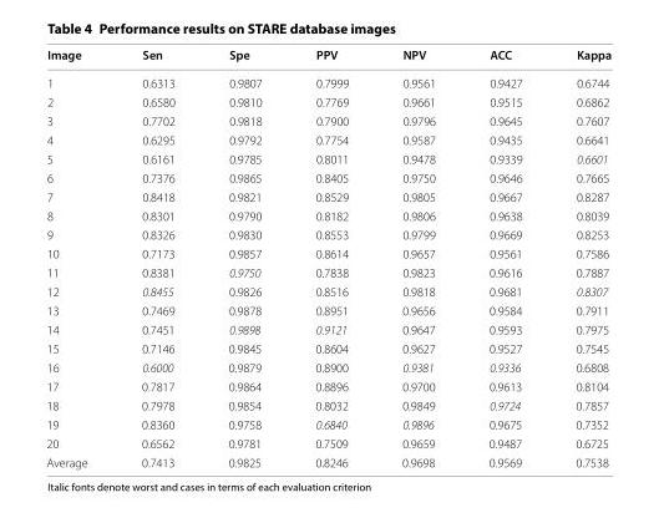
<table><thead><tr><td>Image</td><td>Sen</td><td>Spe</td><td>PPV</td><td>NPV</td><td>ACC</td><td>Kappa</td></tr></thead><tbody><tr><td>1</td><td>0.6313</td><td>0.9807</td><td>0.7999</td><td>0.9561</td><td>0.9427</td><td>0.6744</td></tr><tr><td>2</td><td>0.6580</td><td>0.9810</td><td>0.7769</td><td>0.9661</td><td>0.9515</td><td>0.6862</td></tr><tr><td>3</td><td>0.7702</td><td>0.9818</td><td>0.7900</td><td>0.9796</td><td>0.9645</td><td>0.7607</td></tr><tr><td>4</td><td>0.6295</td><td>0.9792</td><td>0.7754</td><td>0.9587</td><td>0.9435</td><td>0.6641</td></tr><tr><td>5</td><td>0.6161</td><td>0.9785</td><td>0.8011</td><td>0.9478</td><td>0.9339</td><td>0.6601</td></tr><tr><td>6</td><td>0.7376</td><td>0.9865</td><td>0.8405</td><td>0.9750</td><td>0.9646</td><td>0.7665</td></tr><tr><td>7</td><td>0.8418</td><td>0.9821</td><td>0.8529</td><td>0.9805</td><td>0.9667</td><td>0.8287</td></tr><tr><td>8</td><td>0.8301</td><td>0.9790</td><td>0.8182</td><td>0.9806</td><td>0.9638</td><td>0.8039</td></tr><tr><td>9</td><td>0.8326</td><td>0.9830</td><td>0.8553</td><td>0.9799</td><td>0.9669</td><td>0.8253</td></tr><tr><td>10</td><td>0.7173</td><td>0.9857</td><td>0.8614</td><td>0.9657</td><td>0.9561</td><td>0.7586</td></tr><tr><td>11</td><td>0.8381</td><td>0.9750</td><td>0.7838</td><td>0.9823</td><td>0.9616</td><td>0.7887</td></tr><tr><td>12</td><td>0.8455</td><td>0.9826</td><td>0.8516</td><td>0.9818</td><td>0.9681</td><td>0.8307</td></tr><tr><td>13</td><td>0.7469</td><td>0.9878</td><td>0.8951</td><td>0.9656</td><td>0.9584</td><td>0.7911</td></tr><tr><td>14</td><td>0.7451</td><td>0.9898</td><td>0.9121</td><td>0.9647</td><td>0.9593</td><td>0.7975</td></tr><tr><td>15</td><td>0.7146</td><td>0.9845</td><td>0.8604</td><td>0.9627</td><td>0.9527</td><td>0.7545</td></tr><tr><td>16</td><td>0.6000</td><td>0.9879</td><td>0.8900</td><td>0.9381</td><td>0.9336</td><td>0.6808</td></tr><tr><td>17</td><td>0.7817</td><td>0.9864</td><td>0.8896</td><td>0.9700</td><td>0.9613</td><td>0.8104</td></tr><tr><td>18</td><td>0.7978</td><td>0.9854</td><td>0.8032</td><td>0.9849</td><td>0.9724</td><td>0.7857</td></tr><tr><td>19</td><td>0.8360</td><td>0.9758</td><td>0.6840</td><td>0.9896</td><td>0.9675</td><td>0.7352</td></tr><tr><td>20</td><td>0.6562</td><td>0.9781</td><td>0.7509</td><td>0.9659</td><td>0.9487</td><td>0.6725</td></tr><tr><td>Average</td><td>0.7413</td><td>0.9825</td><td>0.8246</td><td>0.9698</td><td>0.9569</td><td>0.7538</td></tr></tbody></table>